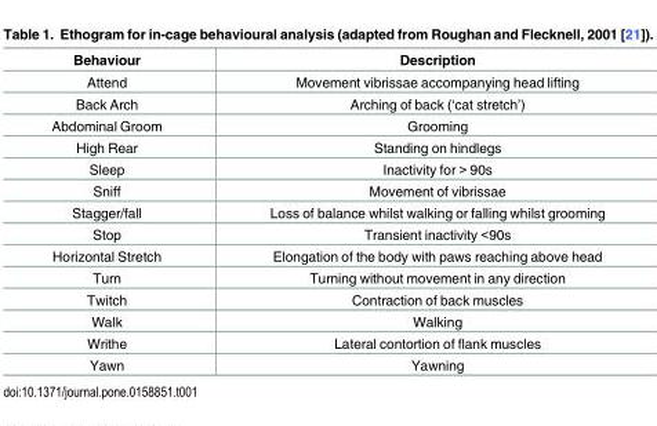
<table><thead><tr><td>Behaviour</td><td>Description</td></tr></thead><tbody><tr><td>Attend</td><td>Movement vibrissae accompanying head lifting</td></tr><tr><td>Back Arch</td><td>Arching of back (‘cat stretch’)</td></tr><tr><td>Abdominal Groom</td><td>Grooming</td></tr><tr><td>High Rear</td><td>Standing on hindlegs</td></tr><tr><td>Sleep</td><td>Inactivity for &gt; 90s</td></tr><tr><td>Sniff</td><td>Movement of vibrissae</td></tr><tr><td>Stagger/fall</td><td>Loss of balance whilst walking or falling whilst grooming</td></tr><tr><td>Stop</td><td>Transient inactivity &lt;90s</td></tr><tr><td>Horizontal Stretch</td><td>Elongation of the body with paws reaching above head</td></tr><tr><td>Turn</td><td>Turning without movement in any direction</td></tr><tr><td>Twitch</td><td>Contraction of back muscles</td></tr><tr><td>Walk</td><td>Walking</td></tr><tr><td>Writhe</td><td>Lateral contortion of flank muscles</td></tr><tr><td>Yawn</td><td>Yawning</td></tr></tbody></table>